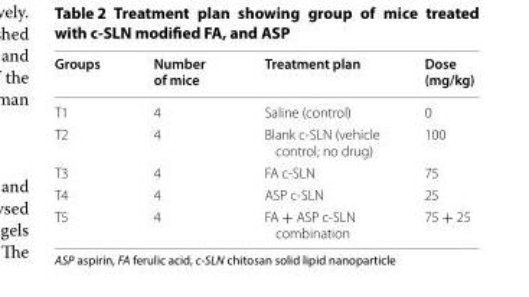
<table><thead><tr><td>Groups</td><td>Number of mice</td><td>Treatment plan</td><td>Dose (mg/kg)</td></tr></thead><tbody><tr><td>T1</td><td>4</td><td>Saline (control)</td><td>0</td></tr><tr><td>T2</td><td>4</td><td>Blank c-SLN (vehicle control; no drug)</td><td>100</td></tr><tr><td>T3</td><td>4</td><td>FA c-SLN</td><td>75</td></tr><tr><td>T4</td><td>4</td><td>ASP c-SLN</td><td>25</td></tr><tr><td>T5</td><td>4</td><td>FA + ASP c-SLN combination</td><td>75 + 25</td></tr></tbody></table>